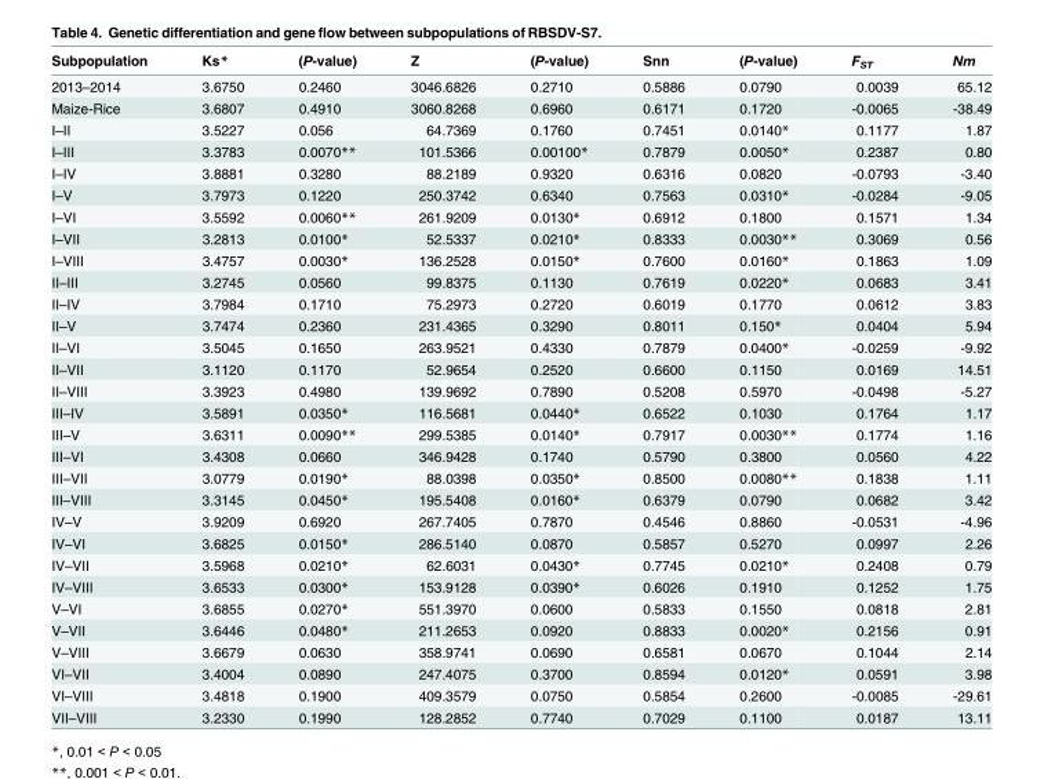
<table><thead><tr><td>Subpopulation</td><td>Ks*</td><td>(P-value)</td><td>Z</td><td>(P-value)</td><td>Snn</td><td>(P-value)</td><td>F<sub>ST</sub></td><td>Nm</td></tr></thead><tbody><tr><td>2013–2014</td><td>3.6750</td><td>0.2460</td><td>3046.6826</td><td>0.2710</td><td>0.5886</td><td>0.0790</td><td>0.0039</td><td>65.12</td></tr><tr><td>Maize-Rice</td><td>3.6807</td><td>0.4910</td><td>3060.8268</td><td>0.6960</td><td>0.6171</td><td>0.1720</td><td>-0.0065</td><td>-38.49</td></tr><tr><td>I–II</td><td>3.5227</td><td>0.056</td><td>64.7369</td><td>0.1760</td><td>0.7451</td><td>0.0140*</td><td>0.1177</td><td>1.87</td></tr><tr><td>I–III</td><td>3.3783</td><td>0.0070**</td><td>101.5366</td><td>0.00100*</td><td>0.7879</td><td>0.0050*</td><td>0.2387</td><td>0.80</td></tr><tr><td>I–IV</td><td>3.8881</td><td>0.3280</td><td>88.2189</td><td>0.9320</td><td>0.6316</td><td>0.0820</td><td>-0.0793</td><td>-3.40</td></tr><tr><td>I–V</td><td>3.7973</td><td>0.1220</td><td>250.3742</td><td>0.6340</td><td>0.7563</td><td>0.0310*</td><td>-0.0284</td><td>-9.05</td></tr><tr><td>I–VI</td><td>3.5592</td><td>0.0060**</td><td>261.9209</td><td>0.0130*</td><td>0.6912</td><td>0.1800</td><td>0.1571</td><td>1.34</td></tr><tr><td>I–VII</td><td>3.2813</td><td>0.0100*</td><td>52.5337</td><td>0.0210*</td><td>0.8333</td><td>0.0030**</td><td>0.3069</td><td>0.56</td></tr><tr><td>I–VIII</td><td>3.4757</td><td>0.0030*</td><td>136.2528</td><td>0.0150*</td><td>0.7600</td><td>0.0160*</td><td>0.1863</td><td>1.09</td></tr><tr><td>II–III</td><td>3.2745</td><td>0.0560</td><td>99.8375</td><td>0.1130</td><td>0.7619</td><td>0.0220*</td><td>0.0683</td><td>3.41</td></tr><tr><td>II–IV</td><td>3.7984</td><td>0.1710</td><td>75.2973</td><td>0.2720</td><td>0.6019</td><td>0.1770</td><td>0.0612</td><td>3.83</td></tr><tr><td>II–V</td><td>3.7474</td><td>0.2360</td><td>231.4365</td><td>0.3290</td><td>0.8011</td><td>0.150*</td><td>0.0404</td><td>5.94</td></tr><tr><td>II–VI</td><td>3.5045</td><td>0.1650</td><td>263.9521</td><td>0.4330</td><td>0.7879</td><td>0.0400*</td><td>-0.0259</td><td>-9.92</td></tr><tr><td>II–VII</td><td>3.1120</td><td>0.1170</td><td>52.9654</td><td>0.2520</td><td>0.6600</td><td>0.1150</td><td>0.0169</td><td>14.51</td></tr><tr><td>II–VIII</td><td>3.3923</td><td>0.4980</td><td>139.9692</td><td>0.7890</td><td>0.5208</td><td>0.5970</td><td>-0.0498</td><td>-5.27</td></tr><tr><td>III–IV</td><td>3.5891</td><td>0.0350*</td><td>116.5681</td><td>0.0440*</td><td>0.6522</td><td>0.1030</td><td>0.1764</td><td>1.17</td></tr><tr><td>III–V</td><td>3.6311</td><td>0.0090**</td><td>299.5385</td><td>0.0140*</td><td>0.7917</td><td>0.0030**</td><td>0.1774</td><td>1.16</td></tr><tr><td>III–VI</td><td>3.4308</td><td>0.0660</td><td>346.9428</td><td>0.1740</td><td>0.5790</td><td>0.3800</td><td>0.0560</td><td>4.22</td></tr><tr><td>III–VII</td><td>3.0779</td><td>0.0190*</td><td>88.0398</td><td>0.0350*</td><td>0.8500</td><td>0.0080**</td><td>0.1838</td><td>1.11</td></tr><tr><td>III–VIII</td><td>3.3145</td><td>0.0450*</td><td>195.5408</td><td>0.0160*</td><td>0.6379</td><td>0.0790</td><td>0.0682</td><td>3.42</td></tr><tr><td>IV–V</td><td>3.9209</td><td>0.6920</td><td>267.7405</td><td>0.7870</td><td>0.4546</td><td>0.8860</td><td>-0.0531</td><td>-4.96</td></tr><tr><td>IV–VI</td><td>3.6825</td><td>0.0150*</td><td>286.5140</td><td>0.0870</td><td>0.5857</td><td>0.5270</td><td>0.0997</td><td>2.26</td></tr><tr><td>IV–VII</td><td>3.5968</td><td>0.0210*</td><td>62.6031</td><td>0.0430*</td><td>0.7745</td><td>0.0210*</td><td>0.2408</td><td>0.79</td></tr><tr><td>IV–VIII</td><td>3.6533</td><td>0.0300*</td><td>153.9128</td><td>0.0390*</td><td>0.6026</td><td>0.1910</td><td>0.1252</td><td>1.75</td></tr><tr><td>V–VI</td><td>3.6855</td><td>0.0270*</td><td>551.3970</td><td>0.0600</td><td>0.5833</td><td>0.1550</td><td>0.0818</td><td>2.81</td></tr><tr><td>V–VII</td><td>3.6446</td><td>0.0480*</td><td>211.2653</td><td>0.0920</td><td>0.8833</td><td>0.0020*</td><td>0.2156</td><td>0.91</td></tr><tr><td>V–VIII</td><td>3.6679</td><td>0.0630</td><td>358.9741</td><td>0.0690</td><td>0.6581</td><td>0.0670</td><td>0.1044</td><td>2.14</td></tr><tr><td>VI–VII</td><td>3.4004</td><td>0.0890</td><td>247.4075</td><td>0.3700</td><td>0.8594</td><td>0.0120*</td><td>0.0591</td><td>3.98</td></tr><tr><td>VI–VIII</td><td>3.4818</td><td>0.1900</td><td>409.3579</td><td>0.0750</td><td>0.5854</td><td>0.2600</td><td>-0.0085</td><td>-29.61</td></tr><tr><td>VII–VIII</td><td>3.2330</td><td>0.1990</td><td>128.2852</td><td>0.7740</td><td>0.7029</td><td>0.1100</td><td>0.0187</td><td>13.11</td></tr></tbody></table>